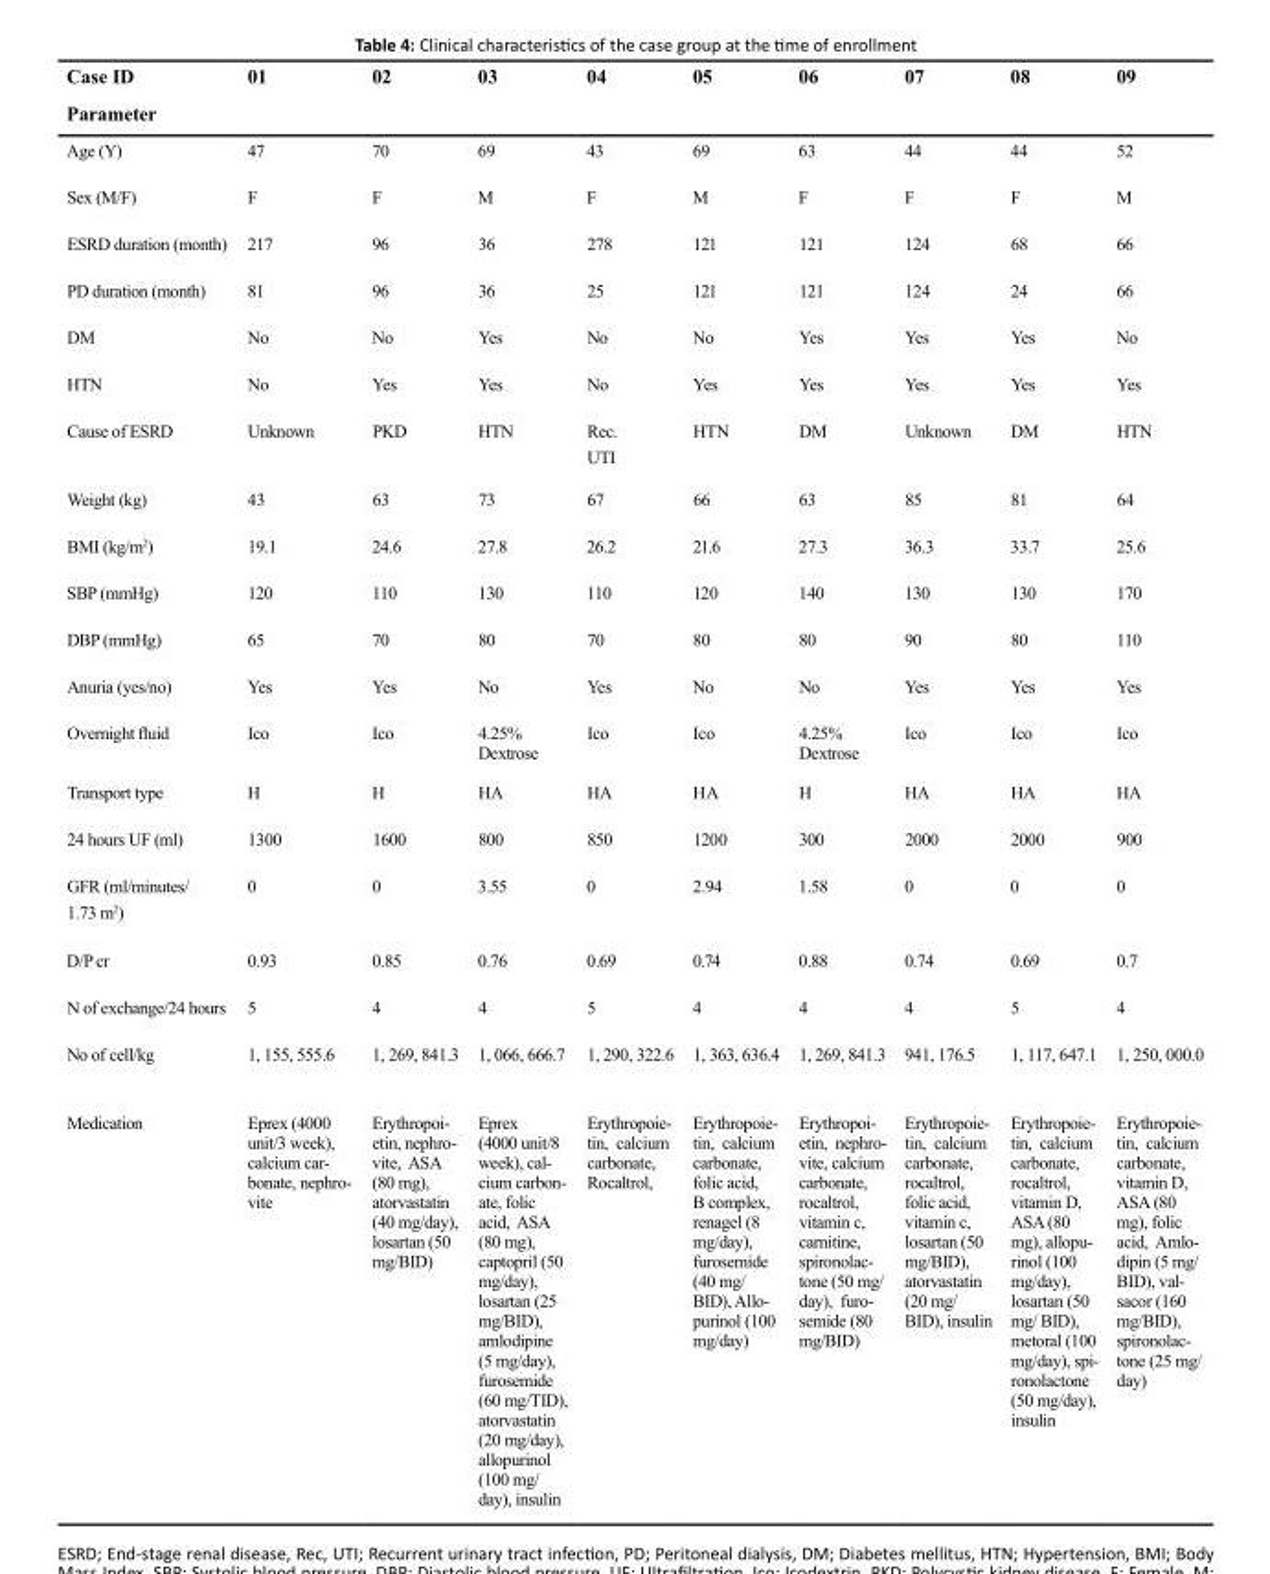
<table><thead><tr><td rowspan="2">Case ID Parameter</td><td rowspan="2">01</td><td rowspan="2">02</td><td rowspan="2">03</td><td rowspan="2">04</td><td rowspan="2">05</td><td rowspan="2">06</td><td rowspan="2">07</td><td rowspan="2">08</td><td rowspan="2">09</td></tr><tr></tr></thead><tbody><tr><td>Age (Y)</td><td>47</td><td>70</td><td>69</td><td>43</td><td>69</td><td>63</td><td>44</td><td>44</td><td>52</td></tr><tr><td>Sex (M/F)</td><td>F</td><td>F</td><td>M</td><td>F</td><td>M</td><td>F</td><td>F</td><td>F</td><td>M</td></tr><tr><td>ESRD duration (month)</td><td>217</td><td>96</td><td>36</td><td>278</td><td>121</td><td>121</td><td>124</td><td>68</td><td>66</td></tr><tr><td>PD duration (month)</td><td>81</td><td>96</td><td>36</td><td>25</td><td>121</td><td>121</td><td>124</td><td>24</td><td>66</td></tr><tr><td>DM</td><td>No</td><td>No</td><td>Yes</td><td>No</td><td>No</td><td>Yes</td><td>Yes</td><td>Yes</td><td>No</td></tr><tr><td>HTN</td><td>No</td><td>Yes</td><td>Yes</td><td>No</td><td>Yes</td><td>Yes</td><td>Yes</td><td>Yes</td><td>Yes</td></tr><tr><td>Cause of ESRD</td><td>Unknown</td><td>PKD</td><td>HTN</td><td>Rec. UTI</td><td>HTN</td><td>DM</td><td>Unknown</td><td>DM</td><td>HTN</td></tr><tr><td>Weight (kg)</td><td>43</td><td>63</td><td>73</td><td>67</td><td>66</td><td>63</td><td>85</td><td>81</td><td>64</td></tr><tr><td>BMI (kg/m<sup>2</sup>)</td><td>19.1</td><td>24.6</td><td>27.8</td><td>26.2</td><td>21.6</td><td>27.3</td><td>36.3</td><td>33.7</td><td>25.6</td></tr><tr><td>SBP (mmHg)</td><td>120</td><td>110</td><td>130</td><td>110</td><td>120</td><td>140</td><td>130</td><td>130</td><td>170</td></tr><tr><td>DBP (mmHg)</td><td>65</td><td>70</td><td>80</td><td>70</td><td>80</td><td>80</td><td>90</td><td>80</td><td>110</td></tr><tr><td>Anuria (yes/no)</td><td>Yes</td><td>Yes</td><td>No</td><td>Yes</td><td>No</td><td>No</td><td>Yes</td><td>Yes</td><td>Yes</td></tr><tr><td>Overnight fluid</td><td>Ico</td><td>Ico</td><td>4.25% Dextrose</td><td>Ico</td><td>Ico</td><td>4.25% Dextrose</td><td>Ico</td><td>Ico</td><td>Ico</td></tr><tr><td>Transport type</td><td>H</td><td>H</td><td>HA</td><td>HA</td><td>HA</td><td>H</td><td>HA</td><td>HA</td><td>HA</td></tr><tr><td>24 hours UF (ml)</td><td>1300</td><td>1600</td><td>800</td><td>850</td><td>1200</td><td>300</td><td>2000</td><td>2000</td><td>900</td></tr><tr><td>GFR (ml/minutes/ 1.73 m<sup>2</sup>)</td><td>0</td><td>0</td><td>3.55</td><td>0</td><td>2.94</td><td>1.58</td><td>0</td><td>0</td><td>0</td></tr><tr><td>D/P cr</td><td>0.93</td><td>0.85</td><td>0.76</td><td>0.69</td><td>0.74</td><td>0.88</td><td>0.74</td><td>0.69</td><td>0.7</td></tr><tr><td>N of exchange/24 hours</td><td>5</td><td>4</td><td>4</td><td>5</td><td>4</td><td>4</td><td>4</td><td>5</td><td>4</td></tr><tr><td>No of cell/kg</td><td>1, 155, 555.6</td><td>1, 269, 841.3</td><td>1, 066, 666.7</td><td>1, 290, 322.6</td><td>1, 363, 636.4</td><td>1, 269, 841.3</td><td>941, 176.5</td><td>1, 117, 647.1</td><td>1, 250, 000.0</td></tr><tr><td>Medication</td><td>Eprex (4000 unit/3 week), calcium car- bonate, nephro- vite</td><td>Erythropoi- etin, nephro- vite, ASA (80 mg), atorvastatin (40 mg/day), losartan (50 mg/BID)</td><td>Eprex (4000 unit/8 week), cal- cium carbon- ate, folic acid, ASA (80 mg), captopril (50 mg/day), losartan (25 mg/BID), amlodipine (5 mg/day), furosemide (60 mg/TID), atorvastatin (20 mg/day), allopurinol (100 mg/ day), insulin</td><td>Erythropoie- tin, calcium carbonate, Rocaltrol,</td><td>Erythropoie- tin, calcium carbonate, folic acid, B complex, renagel (8 mg/day), furosemide (40 mg/ BID), Allo- purinol (100 mg/day)</td><td>Erythropoi- etin, nephro- vite, calcium carbonate, rocaltrol, vitamin c, carnitine, spironolac- tone (50 mg/ day), furo- semide (80 mg/BID)</td><td>Erythropoie- tin, calcium carbonate, rocaltrol, folic acid, vitamin c, losartan (50 mg/BID), atorvastatin (20 mg/ BID), insulin</td><td>Erythropoie- tin, calcium carbonate, rocaltrol, vitamin D, ASA (80 mg), allopu- rinol (100 mg/day), losartan (50 mg/ BID), metoral (100 mg/day), spi- ronolactone (50 mg/day), insulin</td><td>Erythropoie- tin, calcium carbonate, vitamin D, ASA (80 mg), folic acid, Amlo- dipin (5 mg/ BID), val- sacor (160 mg/BID), spironolac- tone (25 mg/ day)</td></tr></tbody></table>